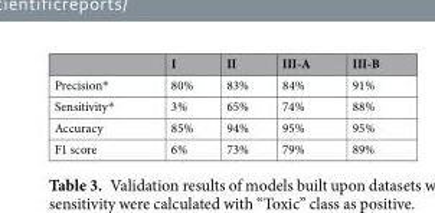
<table><thead><tr><td></td><td>I</td><td>II</td><td>III-A</td><td>III-B</td></tr></thead><tbody><tr><td>Precision*</td><td>80%</td><td>83%</td><td>84%</td><td>91%</td></tr><tr><td>Sensitivity*</td><td>3%</td><td>65%</td><td>74%</td><td>88%</td></tr><tr><td>Accuracy</td><td>85%</td><td>94%</td><td>95%</td><td>95%</td></tr><tr><td>F1 score</td><td>6%</td><td>73%</td><td>79%</td><td>89%</td></tr></tbody></table>